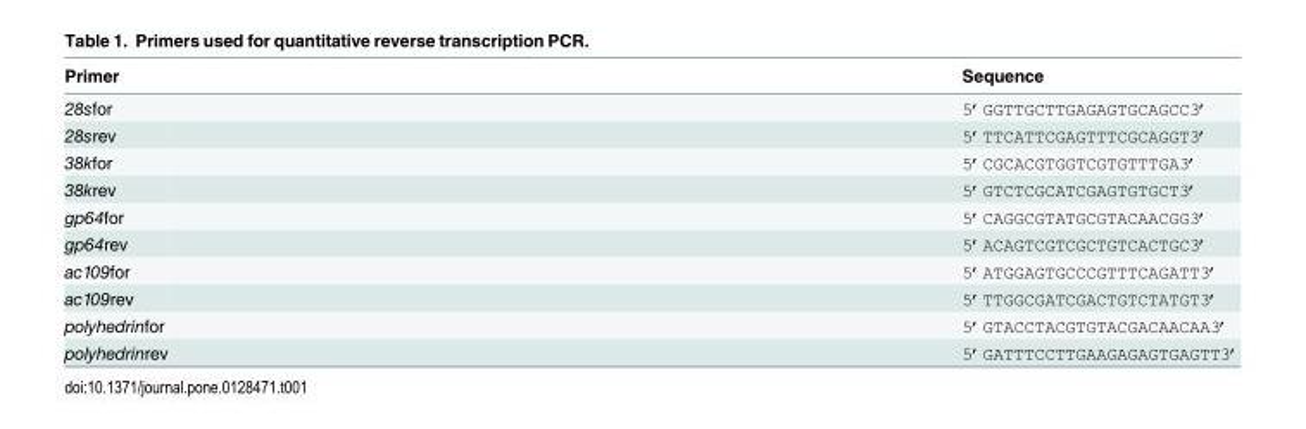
<table><thead><tr><td>Primer</td><td>Sequence</td></tr></thead><tbody><tr><td>28sfor</td><td>5’GGTTGCTTGAGAGTGCAGCC3’</td></tr><tr><td>28srev</td><td>5’TTCATTCGAGTTTCGCAGGT3’</td></tr><tr><td>38kfor</td><td>5’CGCACGTGGTCGTGTTTGA3’</td></tr><tr><td>38krev</td><td>5’GTCTCGCATCGAGTGTGCT3’</td></tr><tr><td>gp64for</td><td>5’CAGGCGTATGCGTACAACGG3’</td></tr><tr><td>gp64rev</td><td>5’ACAGTCGTCGCTGTCACTGC3’</td></tr><tr><td>ac109for</td><td>5’ATGGAGTGCCCGTTTCAGATT3’</td></tr><tr><td>ac109rev</td><td>5’TTGGCGATCGACTGTCTATGT3’</td></tr><tr><td>polyhedrinfor</td><td>5’GTACCTACGTGTACGACAACAA3’</td></tr><tr><td>polyhedrinrev</td><td>5’GATTTCCTTGAAGAGAGTGAGTT3’</td></tr></tbody></table>